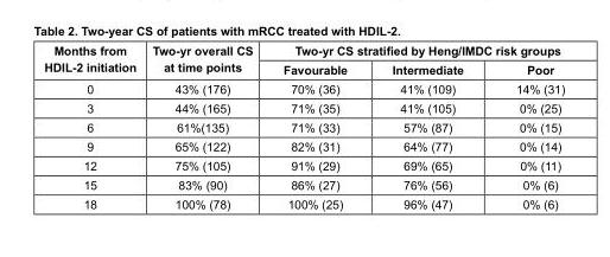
<table><thead><tr><td rowspan="2">Months from HDIL-2 initiation</td><td rowspan="2">Two-yr overall CS at time points</td><td colspan="3">Two-yr CS stratified by Heng/IMDC risk groups</td></tr><tr><td>Favourable</td><td>Intermediate</td><td>Poor</td></tr></thead><tbody><tr><td>0</td><td>43% (176)</td><td>70% (36)</td><td>41% (109)</td><td>14% (31)</td></tr><tr><td>3</td><td>44% (165)</td><td>71% (35)</td><td>41% (105)</td><td>0% (25)</td></tr><tr><td>6</td><td>61%(135)</td><td>71% (33)</td><td>57% (87)</td><td>0% (15)</td></tr><tr><td>9</td><td>65% (122)</td><td>82% (31)</td><td>64% (77)</td><td>0% (14)</td></tr><tr><td>12</td><td>75% (105)</td><td>91% (29)</td><td>69% (65)</td><td>0% (11)</td></tr><tr><td>15</td><td>83% (90)</td><td>86% (27)</td><td>76% (56)</td><td>0% (6)</td></tr><tr><td>18</td><td>100% (78)</td><td>100% (25)</td><td>96% (47)</td><td>0% (6)</td></tr></tbody></table>